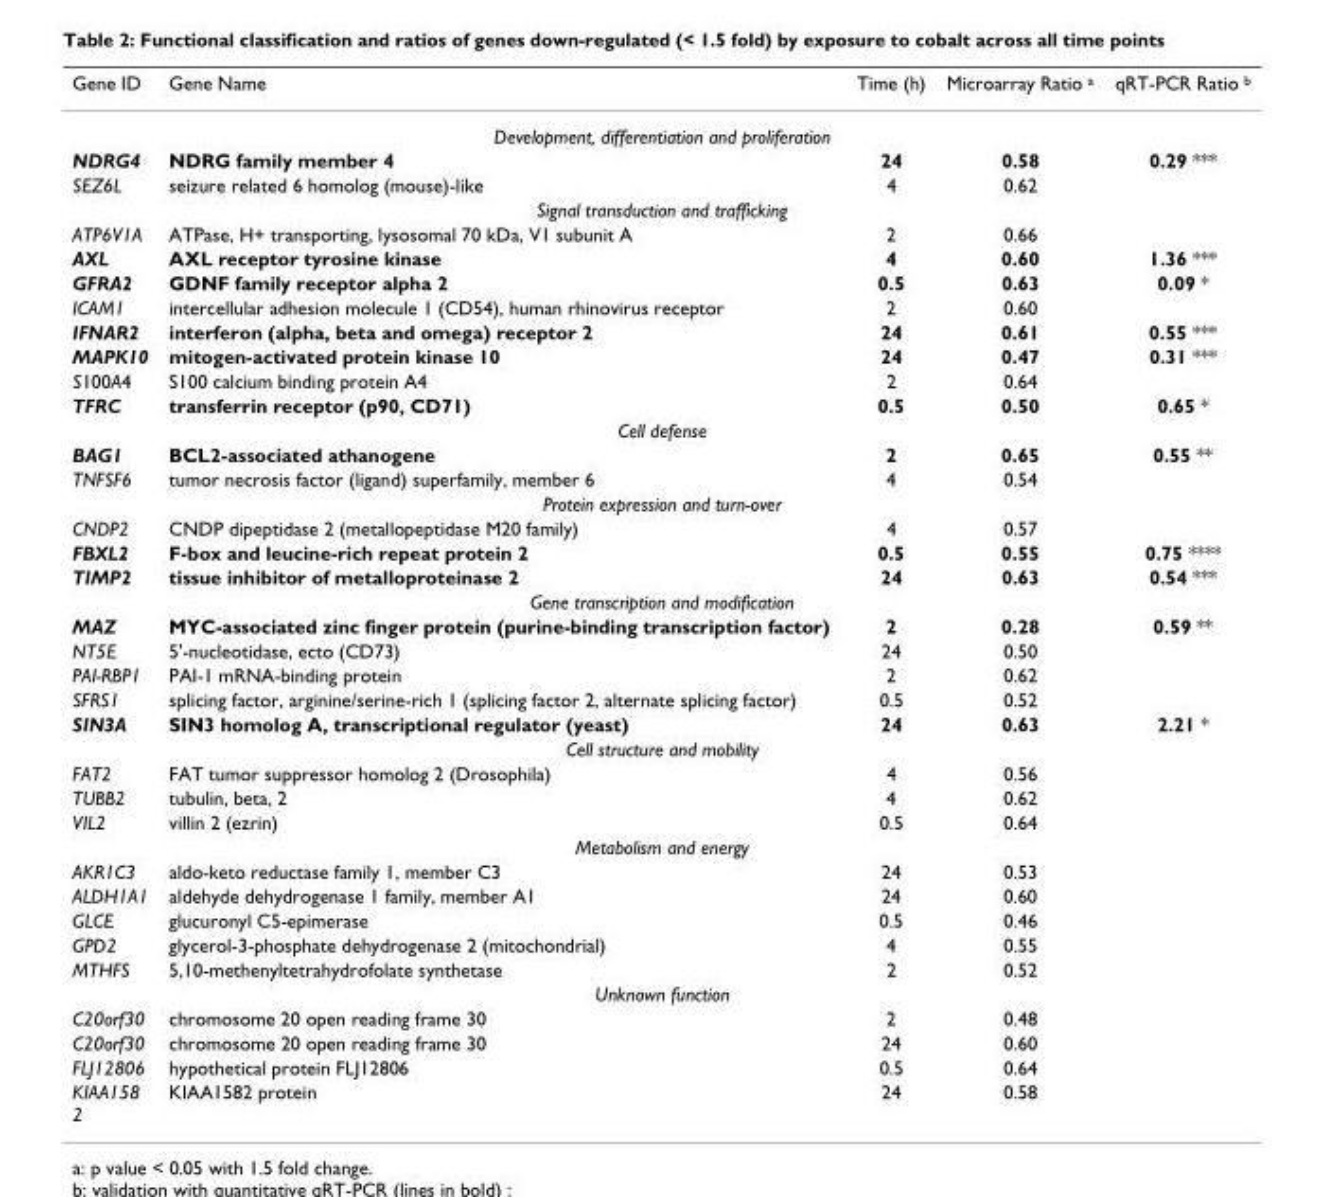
<table><thead><tr><td>Gene ID</td><td>Gene Name</td><td>Time (h)</td><td>Microarray Ratio <sup>a</sup></td><td>qRT-PCR Ratio <sup>b</sup></td></tr></thead><tbody><tr><td colspan="5">Development, differentiation and proliferation</td></tr><tr><td>NDRG4</td><td>NDRG family member 4</td><td>24</td><td>0.58</td><td>0.29 ***</td></tr><tr><td>SEZ6L</td><td>seizure related 6 homolog (mouse)-like</td><td>4</td><td>0.62</td><td></td></tr><tr><td colspan="5">Signal transduction and trafficking</td></tr><tr><td>ATP6V1A</td><td>ATPase, H+ transporting, lysosomal 70 kDa, V1 subunit A</td><td>2</td><td>0.66</td><td></td></tr><tr><td>AXL</td><td>AXL receptor tyrosine kinase</td><td>4</td><td>0.60</td><td>1.36 ***</td></tr><tr><td>GFRA2</td><td>GDNF family receptor alpha 2</td><td>0.5</td><td>0.63</td><td>0.09 *</td></tr><tr><td>ICAM1</td><td>intercellular adhesion molecule 1 (CD54), human rhinovirus receptor</td><td>2</td><td>0.60</td><td></td></tr><tr><td>IFNAR2</td><td>interferon (alpha, beta and omega) receptor 2</td><td>24</td><td>0.61</td><td>0.55 ***</td></tr><tr><td>MAPK10</td><td>mitogen-activated protein kinase 10</td><td>24</td><td>0.47</td><td>0.31 ***</td></tr><tr><td>S100A4</td><td>S100 calcium binding protein A4</td><td>2</td><td>0.64</td><td></td></tr><tr><td>TFRC</td><td>transferrin receptor (p90, CD71)</td><td>0.5</td><td>0.50</td><td>0.65 *</td></tr><tr><td colspan="5">Cell defense</td></tr><tr><td>BAG1</td><td>BCL2-associated athanogene</td><td>2</td><td>0.65</td><td>0.55 **</td></tr><tr><td>TNFSF6</td><td>tumor necrosis factor (ligand) superfamily, member 6</td><td>4</td><td>0.54</td><td></td></tr><tr><td colspan="5">Protein expression and turn-over</td></tr><tr><td>CNDP2</td><td>CNDP dipeptidase 2 (metallopeptidase M20 family)</td><td>4</td><td>0.57</td><td></td></tr><tr><td>FBXL2</td><td>F-box and leucine-rich repeat protein 2</td><td>0.5</td><td>0.55</td><td>0.75 ****</td></tr><tr><td>TIMP2</td><td>tissue inhibitor of metalloproteinase 2</td><td>24</td><td>0.63</td><td>0.54 ***</td></tr><tr><td colspan="5">Gene transcription and modification</td></tr><tr><td>MAZ</td><td>MYC-associated zinc finger protein (purine-binding transcription factor)</td><td>2</td><td>0.28</td><td>0.59 **</td></tr><tr><td>NT5E</td><td>5&#x27;-nucleotidase, ecto (CD73)</td><td>24</td><td>0.50</td><td></td></tr><tr><td>PAI-RBP1</td><td>PAI-1 mRNA-binding protein</td><td>2</td><td>0.62</td><td></td></tr><tr><td>SFRS1</td><td>splicing factor, arginine/serine-rich 1 (splicing factor 2, alternate splicing factor)</td><td>0.5</td><td>0.52</td><td></td></tr><tr><td>SIN3A</td><td>SIN3 homolog A, transcriptional regulator (yeast)</td><td>24</td><td>0.63</td><td>2.21 *</td></tr><tr><td colspan="5">Cell structure and mobility</td></tr><tr><td>FAT2</td><td>FAT tumor suppressor homolog 2 (Drosophila)</td><td>4</td><td>0.56</td><td></td></tr><tr><td>TUBB2</td><td>tubulin, beta, 2</td><td>4</td><td>0.62</td><td></td></tr><tr><td>VIL2</td><td>villin 2 (ezrin)</td><td>0.5</td><td>0.64</td><td></td></tr><tr><td colspan="5">Metabolism and energy</td></tr><tr><td>AKR1C3</td><td>aldo-keto reductase family 1, member C3</td><td>24</td><td>0.53</td><td></td></tr><tr><td>ALDH1A1</td><td>aldehyde dehydrogenase 1 family, member A1</td><td>24</td><td>0.60</td><td></td></tr><tr><td>GLCE</td><td>glucuronyl C5-epimerase</td><td>0.5</td><td>0.46</td><td></td></tr><tr><td>GPD2</td><td>glycerol-3-phosphate dehydrogenase 2 (mitochondrial)</td><td>4</td><td>0.55</td><td></td></tr><tr><td>MTHFS</td><td>5,10-methenyltetrahydrofolate synthetase</td><td>2</td><td>0.52</td><td></td></tr><tr><td colspan="5">Unknown function</td></tr><tr><td>C20orf30</td><td>chromosome 20 open reading frame 30</td><td>2</td><td>0.48</td><td></td></tr><tr><td>C20orf30</td><td>chromosome 20 open reading frame 30</td><td>24</td><td>0.60</td><td></td></tr><tr><td>FLJ12806</td><td>hypothetical protein FLJ12806</td><td>0.5</td><td>0.64</td><td></td></tr><tr><td>KIAA158 2</td><td>KIAA1582 protein</td><td>24</td><td>0.58</td><td></td></tr></tbody></table>